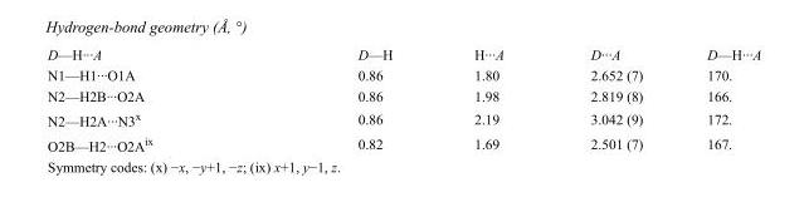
<table><tbody><tr><td>D—H···A</td><td>D—H</td><td>H···A</td><td>D···A</td><td>D—H···A</td></tr><tr><td>N1—H1···O1A</td><td>0.86</td><td>1.80</td><td>2.652 (7)</td><td>170.</td></tr><tr><td>N2—H2B···O2A</td><td>0.86</td><td>1.98</td><td>2.819 (8)</td><td>166.</td></tr><tr><td>N2—H2A···N3<sup>x</sup></td><td>0.86</td><td>2.19</td><td>3.042 (9)</td><td>172.</td></tr><tr><td>O2B—H2···O2A<sup>ix</sup></td><td>0.82</td><td>1.69</td><td>2.501 (7)</td><td>167.</td></tr></tbody></table>